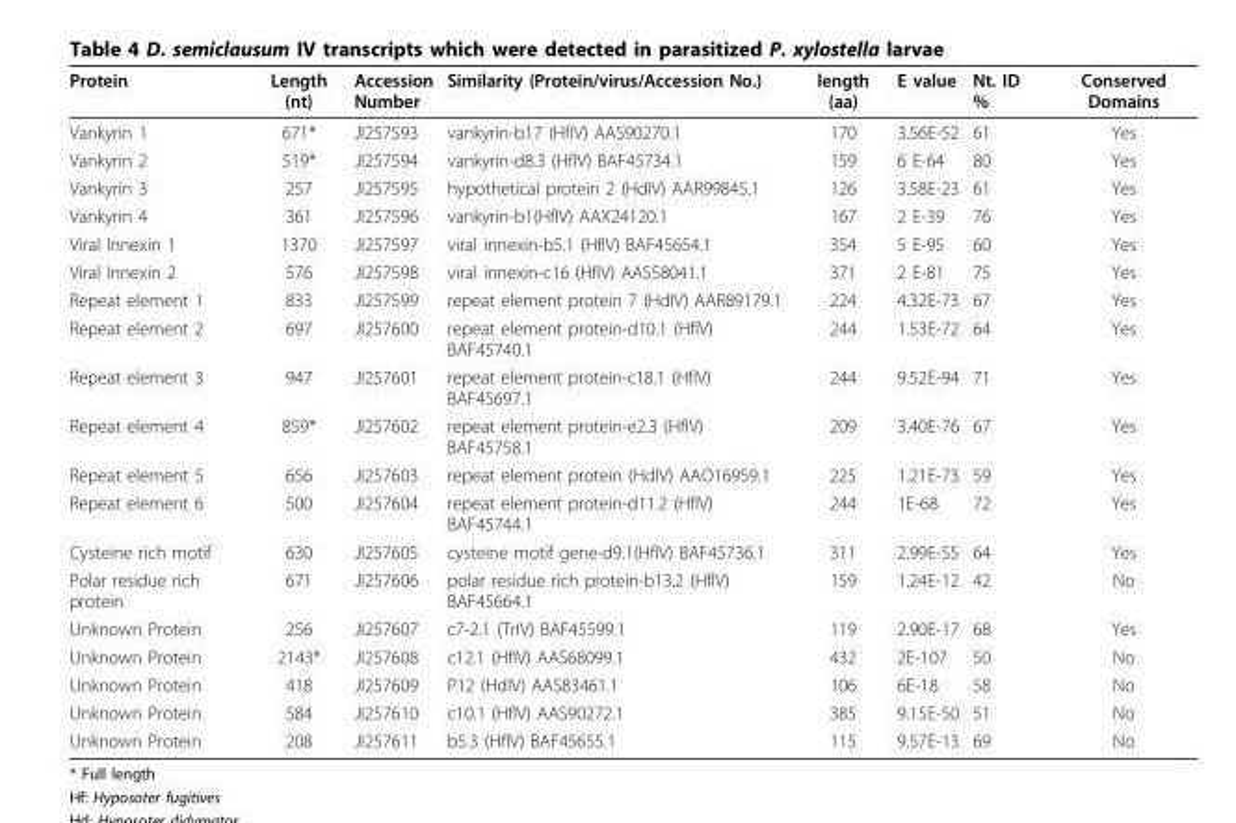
<table><thead><tr><td>Protein</td><td>Length (nt)</td><td>Accession Number</td><td>Similarity (Protein/virus/Accession No.)</td><td>length (aa)</td><td>E value</td><td>Nt. ID %</td><td>Conserved Domains</td></tr></thead><tbody><tr><td>Vankyrin 1</td><td>671*</td><td>JI257593</td><td>vankyrin-b17 (HfIV) AAS90270.1</td><td>170</td><td>3.56E-52</td><td>61</td><td>Yes</td></tr><tr><td>Vankyrin 2</td><td>519*</td><td>JI257594</td><td>vankyrin-d8.3 (HfIV) BAF45734.1</td><td>159</td><td>6 E-64</td><td>80</td><td>Yes</td></tr><tr><td>Vankyrin 3</td><td>257</td><td>JI257595</td><td>hypothetical protein 2 (HdIV) AAR99845.1</td><td>126</td><td>3.58E-23</td><td>61</td><td>Yes</td></tr><tr><td>Vankyrin 4</td><td>361</td><td>JI257596</td><td>vankyrin-b1(HfIV) AAX24120.1</td><td>167</td><td>2 E-39</td><td>76</td><td>Yes</td></tr><tr><td>Viral Innexin 1</td><td>1370</td><td>JI257597</td><td>viral innexin-b5.1 (HfIV) BAF45654.1</td><td>354</td><td>5 E-95</td><td>60</td><td>Yes</td></tr><tr><td>Viral Innexin 2</td><td>576</td><td>JI257598</td><td>viral innexin-c16 (HfIV) AAS58041.1</td><td>371</td><td>2 E-81</td><td>75</td><td>Yes</td></tr><tr><td>Repeat element 1</td><td>833</td><td>JI257599</td><td>repeat element protein 7 (HdIV) AAR89179.1</td><td>224</td><td>4.32E-73</td><td>67</td><td>Yes</td></tr><tr><td>Repeat element 2</td><td>697</td><td>JI257600</td><td>repeat element protein-d10.1 (HfIV) BAF45740.1</td><td>244</td><td>1.53E-72</td><td>64</td><td>Yes</td></tr><tr><td>Repeat element 3</td><td>947</td><td>JI257601</td><td>repeat element protein-c18.1 (HfIV) BAF45697.1</td><td>244</td><td>9.52E-94</td><td>71</td><td>Yes</td></tr><tr><td>Repeat element 4</td><td>859*</td><td>JI257602</td><td>repeat element protein-e2.3 (HfIV) BAF45758.1</td><td>209</td><td>3.40E-76</td><td>67</td><td>Yes</td></tr><tr><td>Repeat element 5</td><td>656</td><td>JI257603</td><td>repeat element protein (HdIV) AAO16959.1</td><td>225</td><td>1.21E-73</td><td>59</td><td>Yes</td></tr><tr><td>Repeat element 6</td><td>500</td><td>JI257604</td><td>repeat element protein-d11.2 (HfIV) BAF45744.1</td><td>244</td><td>1E-68</td><td>72</td><td>Yes</td></tr><tr><td>Cysteine rich motif</td><td>630</td><td>JI257605</td><td>cysteine motif gene-d9.1(HfIV) BAF45736.1</td><td>311</td><td>2.99E-55</td><td>64</td><td>Yes</td></tr><tr><td>Polar residue rich protein</td><td>671</td><td>JI257606</td><td>polar residue rich protein-b13.2 (HfIV) BAF45664.1</td><td>159</td><td>1.24E-12</td><td>42</td><td>No</td></tr><tr><td>Unknown Protein</td><td>256</td><td>JI257607</td><td>c7-2.1 (TrIV) BAF45599.1</td><td>119</td><td>2.90E-17</td><td>68</td><td>Yes</td></tr><tr><td>Unknown Protein</td><td>2143*</td><td>JI257608</td><td>c12.1 (HfIV) AAS68099.1</td><td>432</td><td>2E-107</td><td>50</td><td>No</td></tr><tr><td>Unknown Protein</td><td>418</td><td>JI257609</td><td>P12 (HdIV) AAS83461.1</td><td>106</td><td>6E-18</td><td>58</td><td>No</td></tr><tr><td>Unknown Protein</td><td>584</td><td>JI257610</td><td>c10.1 (HfIV) AAS90272.1</td><td>385</td><td>9.15E-50</td><td>51</td><td>No</td></tr><tr><td>Unknown Protein</td><td>208</td><td>JI257611</td><td>b5.3 (HfIV) BAF45655.1</td><td>115</td><td>9.57E-13</td><td>69</td><td>No</td></tr></tbody></table>